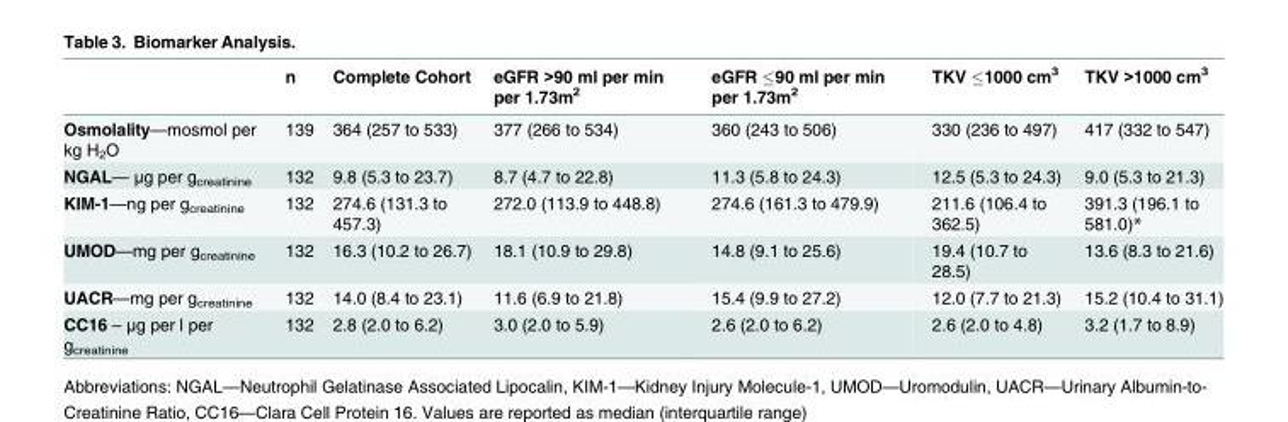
<table><thead><tr><td></td><td>n</td><td>Complete Cohort</td><td>eGFR &gt;90 ml per min per 1.73m<sup>2</sup></td><td>eGFR ≤90 ml per min per 1.73m<sup>2</sup></td><td>TKV ≤1000 cm<sup>3</sup></td><td>TKV &gt;1000 cm<sup>3</sup></td></tr></thead><tbody><tr><td>Osmolality—mosmol per kg H<sub>2</sub>O</td><td>139</td><td>364 (257 to 533)</td><td>377 (266 to 534)</td><td>360 (243 to 506)</td><td>330 (236 to 497)</td><td>417 (332 to 547)</td></tr><tr><td>NGAL— μg per g<sub>creatinine</sub></td><td>132</td><td>9.8 (5.3 to 23.7)</td><td>8.7 (4.7 to 22.8)</td><td>11.3 (5.8 to 24.3)</td><td>12.5 (5.3 to 24.3)</td><td>9.0 (5.3 to 21.3)</td></tr><tr><td>KIM-1—ng per g<sub>creatinine</sub></td><td>132</td><td>274.6 (131.3 to 457.3)</td><td>272.0 (113.9 to 448.8)</td><td>274.6 (161.3 to 479.9)</td><td>211.6 (106.4 to 362.5)</td><td>391.3 (196.1 to 581.0)*</td></tr><tr><td>UMOD—mg per g<sub>creatinine</sub></td><td>132</td><td>16.3 (10.2 to 26.7)</td><td>18.1 (10.9 to 29.8)</td><td>14.8 (9.1 to 25.6)</td><td>19.4 (10.7 to 28.5)</td><td>13.6 (8.3 to 21.6)</td></tr><tr><td>UACR—mg per g<sub>creatinine</sub></td><td>132</td><td>14.0 (8.4 to 23.1)</td><td>11.6 (6.9 to 21.8)</td><td>15.4 (9.9 to 27.2)</td><td>12.0 (7.7 to 21.3)</td><td>15.2 (10.4 to 31.1)</td></tr><tr><td>CC16 – μg per l per g<sub>creatinine</sub></td><td>132</td><td>2.8 (2.0 to 6.2)</td><td>3.0 (2.0 to 5.9)</td><td>2.6 (2.0 to 6.2)</td><td>2.6 (2.0 to 4.8)</td><td>3.2 (1.7 to 8.9)</td></tr></tbody></table>